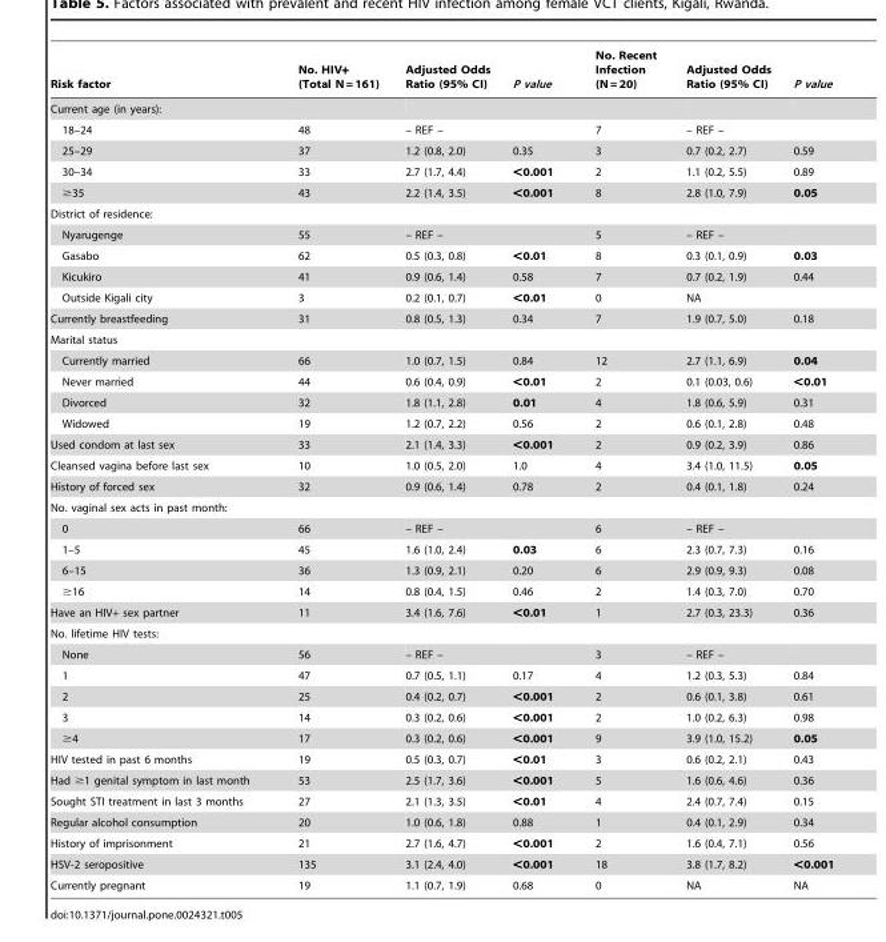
<table><thead><tr><td>Risk factor</td><td>No. HIV+ (Total N = 161)</td><td>Adjusted Odds Ratio (95% CI)</td><td>P value</td><td>No. Recent Infection (N = 20)</td><td>Adjusted Odds Ratio (95% CI)</td><td>P value</td></tr></thead><tbody><tr><td colspan="7">Current age (in years):</td></tr><tr><td>18–24</td><td>48</td><td>– REF –</td><td></td><td>7</td><td>– REF –</td><td></td></tr><tr><td>25–29</td><td>37</td><td>1.2 (0.8, 2.0)</td><td>0.35</td><td>3</td><td>0.7 (0.2, 2.7)</td><td>0.59</td></tr><tr><td>30–34</td><td>33</td><td>2.7 (1.7, 4.4)</td><td>&lt;0.001</td><td>2</td><td>1.1 (0.2, 5.5)</td><td>0.89</td></tr><tr><td>≥35</td><td>43</td><td>2.2 (1.4, 3.5)</td><td>&lt;0.001</td><td>8</td><td>2.8 (1.0, 7.9)</td><td>0.05</td></tr><tr><td colspan="7">District of residence:</td></tr><tr><td>Nyarugenge</td><td>55</td><td>– REF –</td><td></td><td>5</td><td>– REF –</td><td></td></tr><tr><td>Gasabo</td><td>62</td><td>0.5 (0.3, 0.8)</td><td>&lt;0.01</td><td>8</td><td>0.3 (0.1, 0.9)</td><td>0.03</td></tr><tr><td>Kicukiro</td><td>41</td><td>0.9 (0.6, 1.4)</td><td>0.58</td><td>7</td><td>0.7 (0.2, 1.9)</td><td>0.44</td></tr><tr><td>Outside Kigali city</td><td>3</td><td>0.2 (0.1, 0.7)</td><td>&lt;0.01</td><td>0</td><td>NA</td><td></td></tr><tr><td>Currently breastfeeding</td><td>31</td><td>0.8 (0.5, 1.3)</td><td>0.34</td><td>7</td><td>1.9 (0.7, 5.0)</td><td>0.18</td></tr><tr><td colspan="7">Marital status</td></tr><tr><td>Currently married</td><td>66</td><td>1.0 (0.7, 1.5)</td><td>0.84</td><td>12</td><td>2.7 (1.1, 6.9)</td><td>0.04</td></tr><tr><td>Never married</td><td>44</td><td>0.6 (0.4, 0.9)</td><td>&lt;0.01</td><td>2</td><td>0.1 (0.03, 0.6)</td><td>&lt;0.01</td></tr><tr><td>Divorced</td><td>32</td><td>1.8 (1.1, 2.8)</td><td>0.01</td><td>4</td><td>1.8 (0.6, 5.9)</td><td>0.31</td></tr><tr><td>Widowed</td><td>19</td><td>1.2 (0.7, 2.2)</td><td>0.56</td><td>2</td><td>0.6 (0.1, 2.8)</td><td>0.48</td></tr><tr><td>Used condom at last sex</td><td>33</td><td>2.1 (1.4, 3.3)</td><td>&lt;0.001</td><td>2</td><td>0.9 (0.2, 3.9)</td><td>0.86</td></tr><tr><td>Cleansed vagina before last sex</td><td>10</td><td>1.0 (0.5, 2.0)</td><td>1.0</td><td>4</td><td>3.4 (1.0, 11.5)</td><td>0.05</td></tr><tr><td>History of forced sex</td><td>32</td><td>0.9 (0.6, 1.4)</td><td>0.78</td><td>2</td><td>0.4 (0.1, 1.8)</td><td>0.24</td></tr><tr><td colspan="7">No. vaginal sex acts in past month:</td></tr><tr><td>0</td><td>66</td><td>– REF –</td><td></td><td>6</td><td>– REF –</td><td></td></tr><tr><td>1–5</td><td>45</td><td>1.6 (1.0, 2.4)</td><td>0.03</td><td>6</td><td>2.3 (0.7, 7.3)</td><td>0.16</td></tr><tr><td>6–15</td><td>36</td><td>1.3 (0.9, 2.1)</td><td>0.20</td><td>6</td><td>2.9 (0.9, 9.3)</td><td>0.08</td></tr><tr><td>≥16</td><td>14</td><td>0.8 (0.4, 1.5)</td><td>0.46</td><td>2</td><td>1.4 (0.3, 7.0)</td><td>0.70</td></tr><tr><td>Have an HIV+ sex partner</td><td>11</td><td>3.4 (1.6, 7.6)</td><td>&lt;0.01</td><td>1</td><td>2.7 (0.3, 23.3)</td><td>0.36</td></tr><tr><td colspan="7">No. lifetime HIV tests:</td></tr><tr><td>None</td><td>56</td><td>– REF –</td><td></td><td>3</td><td>– REF –</td><td></td></tr><tr><td>1</td><td>47</td><td>0.7 (0.5, 1.1)</td><td>0.17</td><td>4</td><td>1.2 (0.3, 5.3)</td><td>0.84</td></tr><tr><td>2</td><td>25</td><td>0.4 (0.2, 0.7)</td><td>&lt;0.001</td><td>2</td><td>0.6 (0.1, 3.8)</td><td>0.61</td></tr><tr><td>3</td><td>14</td><td>0.3 (0.2, 0.6)</td><td>&lt;0.001</td><td>2</td><td>1.0 (0.2, 6.3)</td><td>0.98</td></tr><tr><td>≥4</td><td>17</td><td>0.3 (0.2, 0.6)</td><td>&lt;0.001</td><td>9</td><td>3.9 (1.0, 15.2)</td><td>0.05</td></tr><tr><td>HIV tested in past 6 months</td><td>19</td><td>0.5 (0.3, 0.7)</td><td>&lt;0.01</td><td>3</td><td>0.6 (0.2, 2.1)</td><td>0.43</td></tr><tr><td>Had ≥1 genital symptom in last month</td><td>53</td><td>2.5 (1.7, 3.6)</td><td>&lt;0.001</td><td>5</td><td>1.6 (0.6, 4.6)</td><td>0.36</td></tr><tr><td>Sought STI treatment in last 3 months</td><td>27</td><td>2.1 (1.3, 3.5)</td><td>&lt;0.01</td><td>4</td><td>2.4 (0.7, 7.4)</td><td>0.15</td></tr><tr><td>Regular alcohol consumption</td><td>20</td><td>1.0 (0.6, 1.8)</td><td>0.88</td><td>1</td><td>0.4 (0.1, 2.9)</td><td>0.34</td></tr><tr><td>History of imprisonment</td><td>21</td><td>2.7 (1.6, 4.7)</td><td>&lt;0.001</td><td>2</td><td>1.6 (0.4, 7.1)</td><td>0.56</td></tr><tr><td>HSV-2 seropositive</td><td>135</td><td>3.1 (2.4, 4.0)</td><td>&lt;0.001</td><td>18</td><td>3.8 (1.7, 8.2)</td><td>&lt;0.001</td></tr><tr><td>Currently pregnant</td><td>19</td><td>1.1 (0.7, 1.9)</td><td>0.68</td><td>0</td><td>NA</td><td>NA</td></tr></tbody></table>